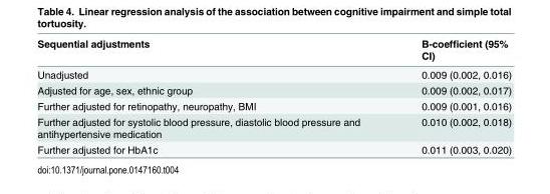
<table><thead><tr><td>Sequential adjustments</td><td>B-coefficient (95% CI)</td></tr></thead><tbody><tr><td>Unadjusted</td><td>0.009 (0.002, 0.016)</td></tr><tr><td>Adjusted for age, sex, ethnic group</td><td>0.009 (0.002, 0.017)</td></tr><tr><td>Further adjusted for retinopathy, neuropathy, BMI</td><td>0.009 (0.001, 0.016)</td></tr><tr><td>Further adjusted for systolic blood pressure, diastolic blood pressure and antihypertensive medication</td><td>0.010 (0.002, 0.018)</td></tr><tr><td>Further adjusted for HbA1c</td><td>0.011 (0.003, 0.020)</td></tr></tbody></table>